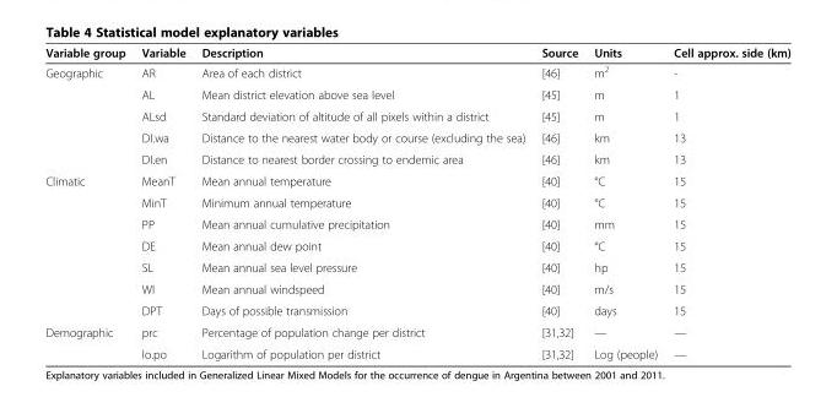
<table><thead><tr><td>Variable group</td><td>Variable</td><td>Description</td><td>Source</td><td>Units</td><td>Cell approx. side (km)</td></tr></thead><tbody><tr><td rowspan="5">Geographic</td><td>AR</td><td>Area of each district</td><td>[46]</td><td>m<sup>2</sup></td><td>-</td></tr><tr><td>AL</td><td>Mean district elevation above sea level</td><td>[45]</td><td>m</td><td>1</td></tr><tr><td>ALsd</td><td>Standard deviation of altitude of all pixels within a district</td><td>[45]</td><td>m</td><td>1</td></tr><tr><td>DI.wa</td><td>Distance to the nearest water body or course (excluding the sea)</td><td>[46]</td><td>km</td><td>13</td></tr><tr><td>DI.en</td><td>Distance to nearest border crossing to endemic area</td><td>[46]</td><td>km</td><td>13</td></tr><tr><td rowspan="7">Climatic</td><td>MeanT</td><td>Mean annual temperature</td><td>[40]</td><td>°C</td><td>15</td></tr><tr><td>MinT</td><td>Minimum annual temperature</td><td>[40]</td><td>°C</td><td>15</td></tr><tr><td>PP</td><td>Mean annual cumulative precipitation</td><td>[40]</td><td>mm</td><td>15</td></tr><tr><td>DE</td><td>Mean annual dew point</td><td>[40]</td><td>°C</td><td>15</td></tr><tr><td>SL</td><td>Mean annual sea level pressure</td><td>[40]</td><td>hp</td><td>15</td></tr><tr><td>WI</td><td>Mean annual windspeed</td><td>[40]</td><td>m/s</td><td>15</td></tr><tr><td>DPT</td><td>Days of possible transmission</td><td>[40]</td><td>days</td><td>15</td></tr><tr><td rowspan="2">Demographic</td><td>prc</td><td>Percentage of population change per district</td><td>[31,32]</td><td>—</td><td>—</td></tr><tr><td>lo.po</td><td>Logarithm of population per district</td><td>[31,32]</td><td>Log (people)</td><td>—</td></tr></tbody></table>